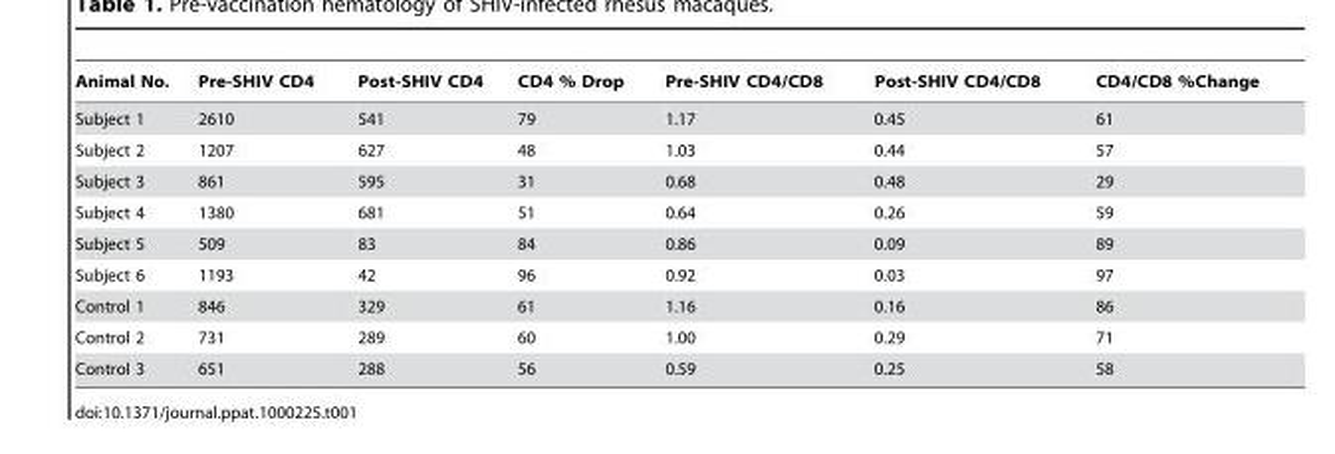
<table><thead><tr><td>Animal No.</td><td>Pre-SHIV CD4</td><td>Post-SHIV CD4</td><td>CD4 % Drop</td><td>Pre-SHIV CD4/CD8</td><td>Post-SHIV CD4/CD8</td><td>CD4/CD8 %Change</td></tr></thead><tbody><tr><td>Subject 1</td><td>2610</td><td>541</td><td>79</td><td>1.17</td><td>0.45</td><td>61</td></tr><tr><td>Subject 2</td><td>1207</td><td>627</td><td>48</td><td>1.03</td><td>0.44</td><td>57</td></tr><tr><td>Subject 3</td><td>861</td><td>595</td><td>31</td><td>0.68</td><td>0.48</td><td>29</td></tr><tr><td>Subject 4</td><td>1380</td><td>681</td><td>51</td><td>0.64</td><td>0.26</td><td>59</td></tr><tr><td>Subject 5</td><td>509</td><td>83</td><td>84</td><td>0.86</td><td>0.09</td><td>89</td></tr><tr><td>Subject 6</td><td>1193</td><td>42</td><td>96</td><td>0.92</td><td>0.03</td><td>97</td></tr><tr><td>Control 1</td><td>846</td><td>329</td><td>61</td><td>1.16</td><td>0.16</td><td>86</td></tr><tr><td>Control 2</td><td>731</td><td>289</td><td>60</td><td>1.00</td><td>0.29</td><td>71</td></tr><tr><td>Control 3</td><td>651</td><td>288</td><td>56</td><td>0.59</td><td>0.25</td><td>58</td></tr></tbody></table>